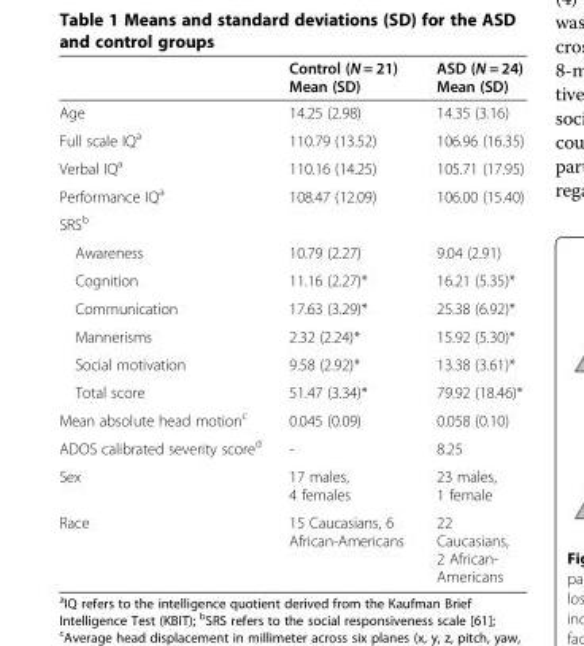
<table><thead><tr><td></td><td>Control (N = 21) Mean (SD)</td><td>ASD (N = 24) Mean (SD)</td></tr></thead><tbody><tr><td>Age</td><td>14.25 (2.98)</td><td>14.35 (3.16)</td></tr><tr><td>Full scale IQ<sup>a</sup></td><td>110.79 (13.52)</td><td>106.96 (16.35)</td></tr><tr><td>Verbal IQ<sup>a</sup></td><td>110.16 (14.25)</td><td>105.71 (17.95)</td></tr><tr><td>Performance IQ<sup>a</sup></td><td>108.47 (12.09)</td><td>106.00 (15.40)</td></tr><tr><td colspan="3">SRS<sup>b</sup></td></tr><tr><td>Awareness</td><td>10.79 (2.27)</td><td>9.04 (2.91)</td></tr><tr><td>Cognition</td><td>11.16 (2.27)*</td><td>16.21 (5.35)*</td></tr><tr><td>Communication</td><td>17.63 (3.29)*</td><td>25.38 (6.92)*</td></tr><tr><td>Mannerisms</td><td>2.32 (2.24)*</td><td>15.92 (5.30)*</td></tr><tr><td>Social motivation</td><td>9.58 (2.92)*</td><td>13.38 (3.61)*</td></tr><tr><td>Total score</td><td>51.47 (3.34)*</td><td>79.92 (18.46)*</td></tr><tr><td>Mean absolute head motion<sup>c</sup></td><td>0.045 (0.09)</td><td>0.058 (0.10)</td></tr><tr><td>ADOS calibrated severity score<sup>d</sup></td><td>-</td><td>8.25</td></tr><tr><td>Sex</td><td>17 males, 4 females</td><td>23 males, 1 female</td></tr><tr><td>Race</td><td>15 Caucasians, 6 African-Americans</td><td>22 Caucasians, 2 African- Americans</td></tr></tbody></table>